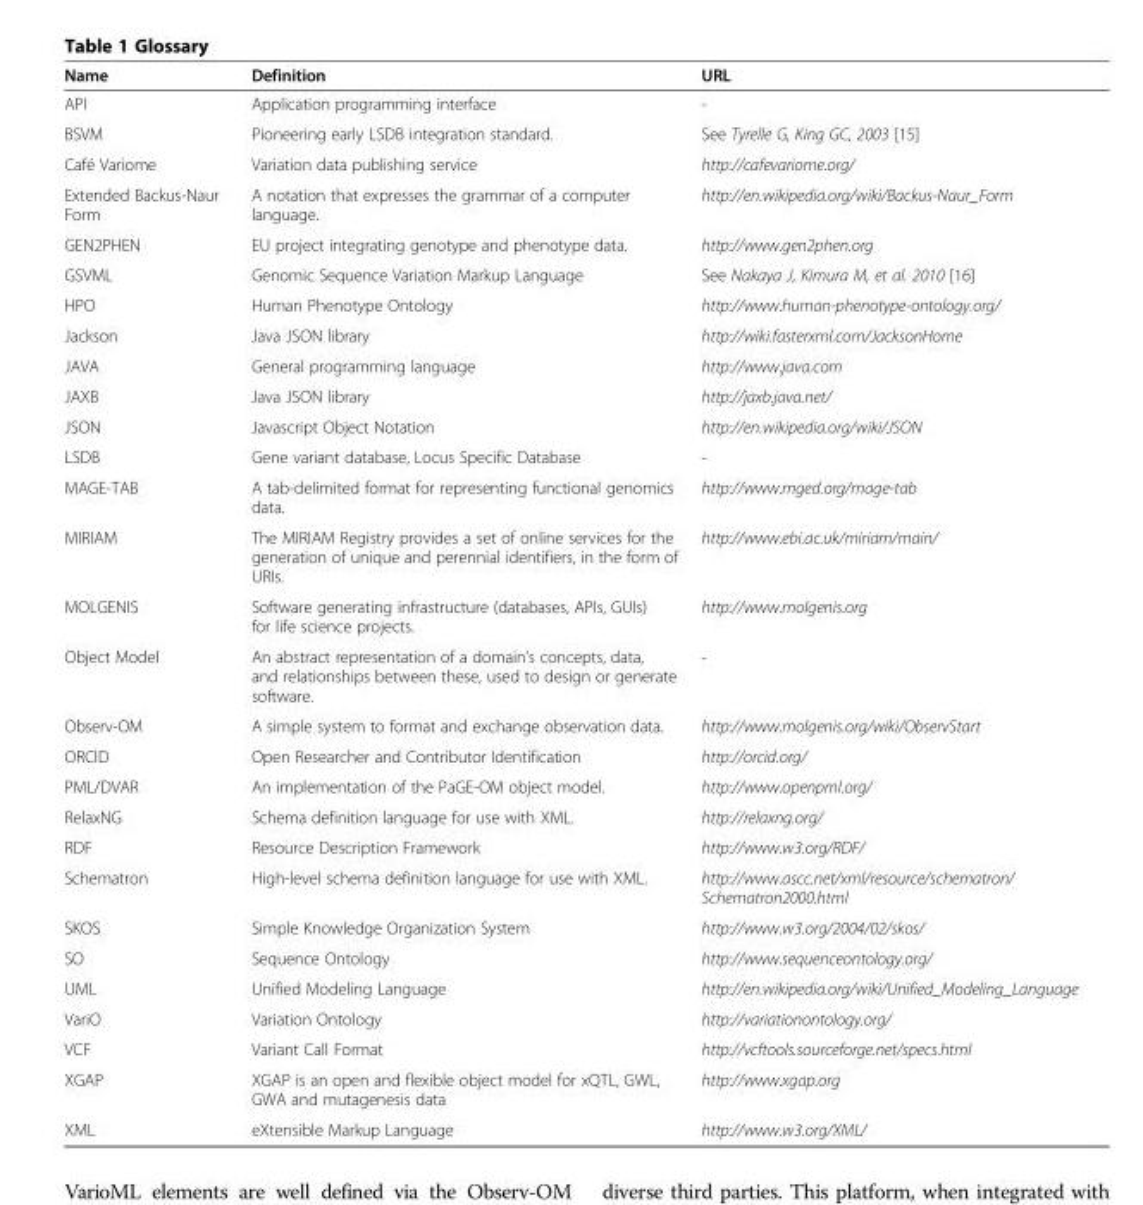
<table><thead><tr><td>Name</td><td>Definition</td><td>URL</td></tr></thead><tbody><tr><td>API</td><td>Application programming interface</td><td>-</td></tr><tr><td>BSVM</td><td>Pioneering early LSDB integration standard.</td><td>See Tyrelle G, King GC, 2003 [15]</td></tr><tr><td>Café Variome</td><td>Variation data publishing service</td><td>http://cafevariome.org/</td></tr><tr><td>Extended Backus-Naur Form</td><td>A notation that expresses the grammar of a computer language.</td><td>http://en.wikipedia.org/wiki/Backus-Naur_Form</td></tr><tr><td>GEN2PHEN</td><td>EU project integrating genotype and phenotype data.</td><td>http://www.gen2phen.org</td></tr><tr><td>GSVML</td><td>Genomic Sequence Variation Markup Language</td><td>See Nakaya J, Kimura M, et al. 2010 [16]</td></tr><tr><td>HPO</td><td>Human Phenotype Ontology</td><td>http://www.human-phenotype-ontology.org/</td></tr><tr><td>Jackson</td><td>Java JSON library</td><td>http://wiki.fasterxml.com/JacksonHome</td></tr><tr><td>JAVA</td><td>General programming language</td><td>http://www.java.com</td></tr><tr><td>JAXB</td><td>Java JSON library</td><td>http://jaxb.java.net/</td></tr><tr><td>JSON</td><td>Javascript Object Notation</td><td>http://en.wikipedia.org/wiki/JSON</td></tr><tr><td>LSDB</td><td>Gene variant database, Locus Specific Database</td><td>-</td></tr><tr><td>MAGE-TAB</td><td>A tab-delimited format for representing functional genomics data.</td><td>http://www.mged.org/mage-tab</td></tr><tr><td>MIRIAM</td><td>The MIRIAM Registry provides a set of online services for the generation of unique and perennial identifiers, in the form of URIs.</td><td>http://www.ebi.ac.uk/miriam/main/</td></tr><tr><td>MOLGENIS</td><td>Software generating infrastructure (databases, APIs, GUIs) for life science projects.</td><td>http://www.molgenis.org</td></tr><tr><td>Object Model</td><td>An abstract representation of a domain’s concepts, data, and relationships between these, used to design or generate software.</td><td>-</td></tr><tr><td>Observ-OM</td><td>A simple system to format and exchange observation data.</td><td>http://www.molgenis.org/wiki/ObservStart</td></tr><tr><td>ORCID</td><td>Open Researcher and Contributor Identification</td><td>http://orcid.org/</td></tr><tr><td>PML/DVAR</td><td>An implementation of the PaGE-OM object model.</td><td>http://www.openpml.org/</td></tr><tr><td>RelaxNG</td><td>Schema definition language for use with XML.</td><td>http://relaxng.org/</td></tr><tr><td>RDF</td><td>Resource Description Framework</td><td>http://www.w3.org/RDF/</td></tr><tr><td>Schematron</td><td>High-level schema definition language for use with XML.</td><td>http://www.ascc.net/xml/resource/schematron/ Schematron2000.html</td></tr><tr><td>SKOS</td><td>Simple Knowledge Organization System</td><td>http://www.w3.org/2004/02/skos/</td></tr><tr><td>SO</td><td>Sequence Ontology</td><td>http://www.sequenceontology.org/</td></tr><tr><td>UML</td><td>Unified Modeling Language</td><td>http://en.wikipedia.org/wiki/Unified_Modeling_Language</td></tr><tr><td>VariO</td><td>Variation Ontology</td><td>http://variationontology.org/</td></tr><tr><td>VCF</td><td>Variant Call Format</td><td>http://vcftools.sourceforge.net/specs.html</td></tr><tr><td>XGAP</td><td>XGAP is an open and flexible object model for xQTL, GWL, GWA and mutagenesis data</td><td>http://www.xgap.org</td></tr><tr><td>XML</td><td>eXtensible Markup Language</td><td>http://www.w3.org/XML/</td></tr></tbody></table>